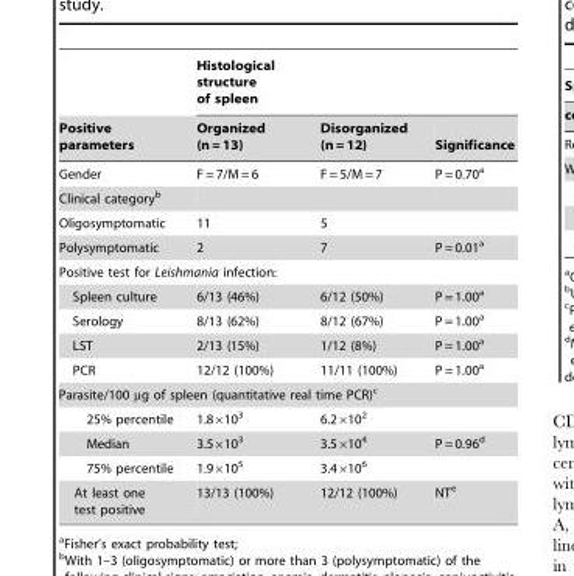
<table><thead><tr><td rowspan="2">Positive parameters</td><td colspan="3">Histological structure of spleen</td></tr><tr><td>Organized (n = 13)</td><td>Disorganized (n = 12)</td><td>Significance</td></tr></thead><tbody><tr><td>Gender</td><td>F = 7/M = 6</td><td>F = 5/M = 7</td><td>P = 0.70<sup>a</sup></td></tr><tr><td colspan="4">Clinical category<sup>b</sup></td></tr><tr><td>Oligosymptomatic</td><td>11</td><td>5</td><td></td></tr><tr><td>Polysymptomatic</td><td>2</td><td>7</td><td>P = 0.01<sup>a</sup></td></tr><tr><td colspan="4">Positive test for Leishmania infection:</td></tr><tr><td>Spleen culture</td><td>6/13 (46%)</td><td>6/12 (50%)</td><td>P = 1.00<sup>a</sup></td></tr><tr><td>Serology</td><td>8/13 (62%)</td><td>8/12 (67%)</td><td>P = 1.00<sup>a</sup></td></tr><tr><td>LST</td><td>2/13 (15%)</td><td>1/12 (8%)</td><td>P = 1.00<sup>a</sup></td></tr><tr><td>PCR</td><td>12/12 (100%)</td><td>11/11 (100%)</td><td>P = 1.00<sup>a</sup></td></tr><tr><td colspan="4">Parasite/100 µg of spleen (quantitative real time PCR)<sup>c</sup></td></tr><tr><td>25% percentile</td><td>1.8×10<sup>3</sup></td><td>6.2×10<sup>2</sup></td><td></td></tr><tr><td>Median</td><td>3.5×10<sup>3</sup></td><td>3.5×10<sup>4</sup></td><td>P = 0.96<sup>d</sup></td></tr><tr><td>75% percentile</td><td>1.9×10<sup>5</sup></td><td>3.4×10<sup>6</sup></td><td></td></tr><tr><td>At least one test positive</td><td>13/13 (100%)</td><td>12/12 (100%)</td><td>NT<sup>e</sup></td></tr></tbody></table>